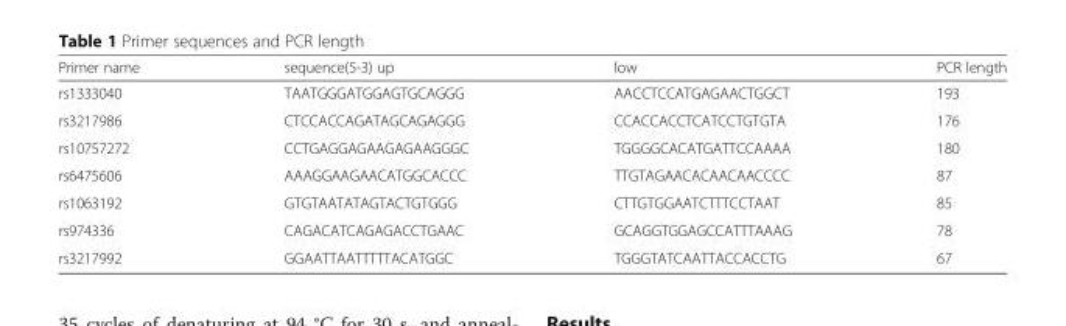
<table><thead><tr><td>Primer name</td><td>sequence(5-3) up</td><td>low</td><td>PCR length</td></tr></thead><tbody><tr><td>rs1333040</td><td>TAATGGGATGGAGTGCAGGG</td><td>AACCTCCATGAGAACTGGCT</td><td>193</td></tr><tr><td>rs3217986</td><td>CTCCACCAGATAGCAGAGGG</td><td>CCACCACCTCATCCTGTGTA</td><td>176</td></tr><tr><td>rs10757272</td><td>CCTGAGGAGAAGAGAAGGGC</td><td>TGGGGCACATGATTCCAAAA</td><td>180</td></tr><tr><td>rs6475606</td><td>AAAGGAAGAACATGGCACCC</td><td>TTGTAGAACACAACAACCCC</td><td>87</td></tr><tr><td>rs1063192</td><td>GTGTAATATAGTACTGTGGG</td><td>CTTGTGGAATCTTTCCTAAT</td><td>85</td></tr><tr><td>rs974336</td><td>CAGACATCAGAGACCTGAAC</td><td>GCAGGTGGAGCCATTTAAAG</td><td>78</td></tr><tr><td>rs3217992</td><td>GGAATTAATTTTTACATGGC</td><td>TGGGTATCAATTACCACCTG</td><td>67</td></tr></tbody></table>